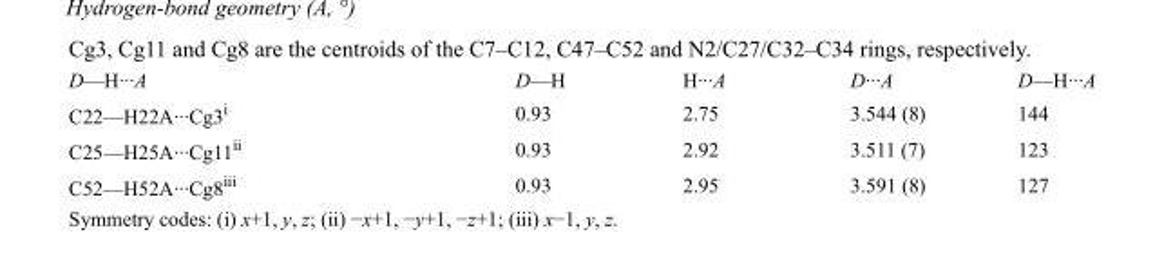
<table><tbody><tr><td>D—H···A</td><td>D—H</td><td>H···A</td><td>D···A</td><td>D—H···A</td></tr><tr><td>C22—H22A···Cg3<sup>i</sup></td><td>0.93</td><td>2.75</td><td>3.544 (8)</td><td>144</td></tr><tr><td>C25—H25A···Cg11<sup>ii</sup></td><td>0.93</td><td>2.92</td><td>3.511 (7)</td><td>123</td></tr><tr><td>C52—H52A···Cg8<sup>iii</sup></td><td>0.93</td><td>2.95</td><td>3.591 (8)</td><td>127</td></tr></tbody></table>